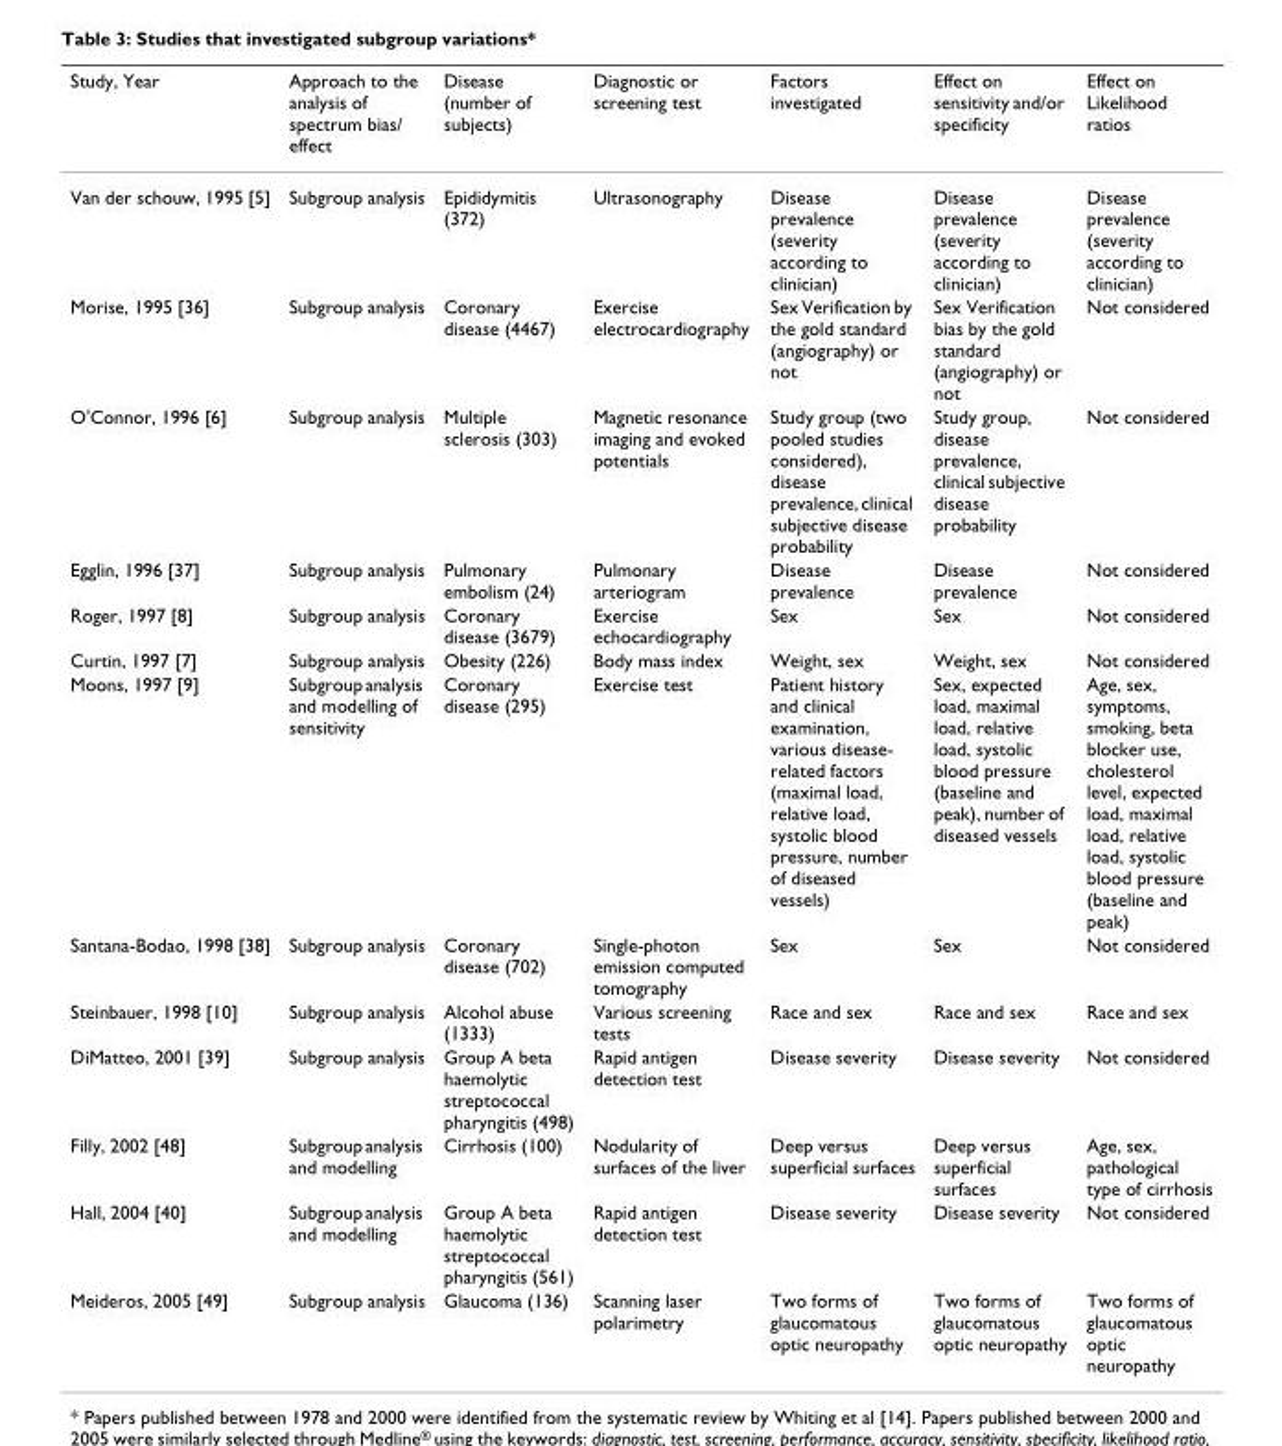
<table><thead><tr><td>Study, Year</td><td>Approach to the analysis of spectrum bias/ effect</td><td>Disease (number of subjects)</td><td>Diagnostic or screening test</td><td>Factors investigated</td><td>Effect on sensitivity and/or specificity</td><td>Effect on Likelihood ratios</td></tr></thead><tbody><tr><td>Van der schouw, 1995 [5]</td><td>Subgroup analysis</td><td>Epididymitis (372)</td><td>Ultrasonography</td><td>Disease prevalence (severity according to clinician)</td><td>Disease prevalence (severity according to clinician)</td><td>Disease prevalence (severity according to clinician)</td></tr><tr><td>Morise, 1995 [36]</td><td>Subgroup analysis</td><td>Coronary disease (4467)</td><td>Exercise electrocardiography</td><td>Sex Verification by the gold standard (angiography) or not</td><td>Sex Verification bias by the gold standard (angiography) or not</td><td>Not considered</td></tr><tr><td>O&#x27;Connor, 1996 [6]</td><td>Subgroup analysis</td><td>Multiple sclerosis (303)</td><td>Magnetic resonance imaging and evoked potentials</td><td>Study group (two pooled studies considered), disease prevalence, clinical subjective disease probability</td><td>Study group, disease prevalence, clinical subjective disease probability</td><td>Not considered</td></tr><tr><td>Egglin, 1996 [37]</td><td>Subgroup analysis</td><td>Pulmonary embolism (24)</td><td>Pulmonary arteriogram</td><td>Disease prevalence</td><td>Disease prevalence</td><td>Not considered</td></tr><tr><td>Roger, 1997 [8]</td><td>Subgroup analysis</td><td>Coronary disease (3679)</td><td>Exercise echocardiography</td><td>Sex</td><td>Sex</td><td>Not considered</td></tr><tr><td>Curtin, 1997 [7]</td><td>Subgroup analysis</td><td>Obesity (226)</td><td>Body mass index</td><td>Weight, sex</td><td>Weight, sex</td><td>Not considered</td></tr><tr><td>Moons, 1997 [9]</td><td>Subgroup analysis and modelling of sensitivity</td><td>Coronary disease (295)</td><td>Exercise test</td><td>Patient history and clinical examination, various disease- related factors (maximal load, relative load, systolic blood pressure, number of diseased vessels)</td><td>Sex, expected load, maximal load, relative load, systolic blood pressure (baseline and peak), number of diseased vessels</td><td>Age, sex, symptoms, smoking, beta blocker use, cholesterol level, expected load, maximal load, relative load, systolic blood pressure (baseline and peak)</td></tr><tr><td>Santana-Bodao, 1998 [38]</td><td>Subgroup analysis</td><td>Coronary disease (702)</td><td>Single-photon emission computed tomography</td><td>Sex</td><td>Sex</td><td>Not considered</td></tr><tr><td>Steinbauer, 1998 [10]</td><td>Subgroup analysis</td><td>Alcohol abuse (1333)</td><td>Various screening tests</td><td>Race and sex</td><td>Race and sex</td><td>Race and sex</td></tr><tr><td>DiMatteo, 2001 [39]</td><td>Subgroup analysis</td><td>Group A beta haemolytic streptococcal pharyngitis (498)</td><td>Rapid antigen detection test</td><td>Disease severity</td><td>Disease severity</td><td>Not considered</td></tr><tr><td>Filly, 2002 [48]</td><td>Subgroup analysis and modelling</td><td>Cirrhosis (100)</td><td>Nodularity of surfaces of the liver</td><td>Deep versus superficial surfaces</td><td>Deep versus superficial surfaces</td><td>Age, sex, pathological type of cirrhosis</td></tr><tr><td>Hall, 2004 [40]</td><td>Subgroup analysis and modelling</td><td>Group A beta haemolytic streptococcal pharyngitis (561)</td><td>Rapid antigen detection test</td><td>Disease severity</td><td>Disease severity</td><td>Not considered</td></tr><tr><td>Meideros, 2005 [49]</td><td>Subgroup analysis</td><td>Glaucoma (136)</td><td>Scanning laser polarimetry</td><td>Two forms of glaucomatous optic neuropathy</td><td>Two forms of glaucomatous optic neuropathy</td><td>Two forms of glaucomatous optic neuropathy</td></tr></tbody></table>